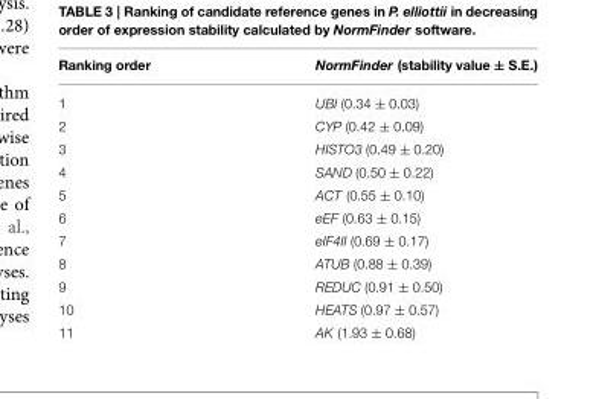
<table><thead><tr><td>Ranking order</td><td>NormFinder (stability value ± S.E.)</td></tr></thead><tbody><tr><td>1</td><td>UBI (0.34 ± 0.03)</td></tr><tr><td>2</td><td>CYP (0.42 ± 0.09)</td></tr><tr><td>3</td><td>HISTO3 (0.49 ± 0.20)</td></tr><tr><td>4</td><td>SAND (0.50 ± 0.22)</td></tr><tr><td>5</td><td>ACT (0.55 ± 0.10)</td></tr><tr><td>6</td><td>eEF (0.63 ± 0.15)</td></tr><tr><td>7</td><td>eIF4II (0.69 ± 0.17)</td></tr><tr><td>8</td><td>ATUB (0.88 ± 0.39)</td></tr><tr><td>9</td><td>REDUC (0.91 ± 0.50)</td></tr><tr><td>10</td><td>HEATS (0.97 ± 0.57)</td></tr><tr><td>11</td><td>AK (1.93 ± 0.68)</td></tr></tbody></table>